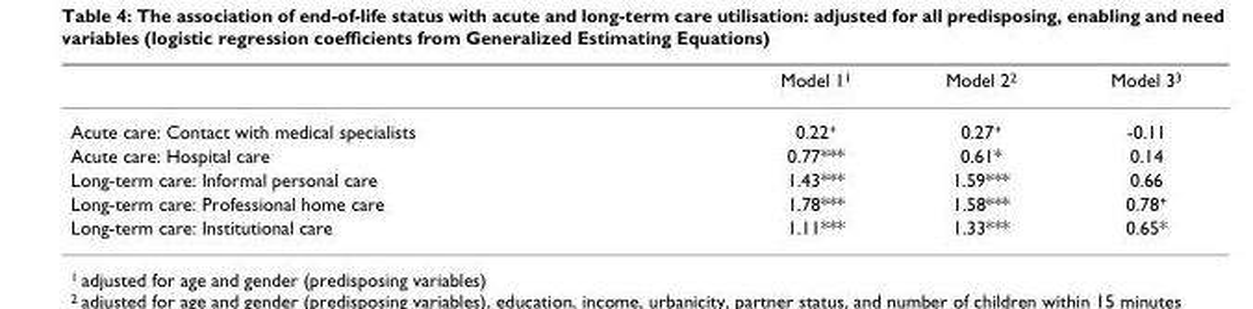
<table><thead><tr><td></td><td>Model 1<sup>1</sup></td><td>Model 2<sup>2</sup></td><td>Model 3<sup>3</sup></td></tr></thead><tbody><tr><td>Acute care: Contact with medical specialists</td><td>0.22<sup>+</sup></td><td>0.27<sup>+</sup></td><td>-0.11</td></tr><tr><td>Acute care: Hospital care</td><td>0.77***</td><td>0.61*</td><td>0.14</td></tr><tr><td>Long-term care: Informal personal care</td><td>1.43***</td><td>1.59***</td><td>0.66</td></tr><tr><td>Long-term care: Professional home care</td><td>1.78***</td><td>1.58***</td><td>0.78<sup>+</sup></td></tr><tr><td>Long-term care: Institutional care</td><td>1.11***</td><td>1.33***</td><td>0.65*</td></tr></tbody></table>